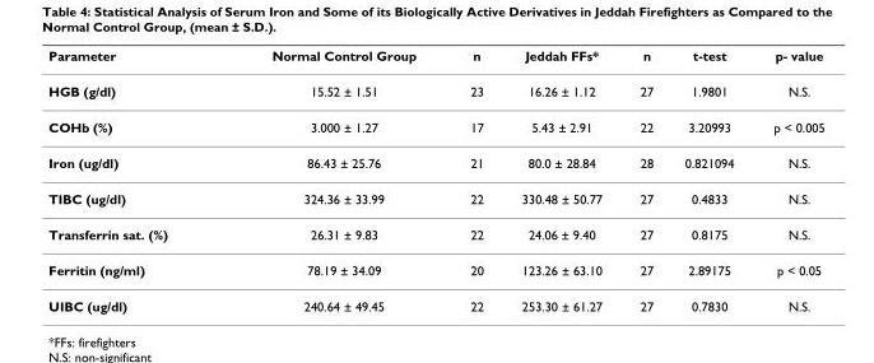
<table><thead><tr><td>Parameter</td><td>Normal Control Group</td><td>n</td><td>Jeddah FFs*</td><td>n</td><td>t-test</td><td>p- value</td></tr></thead><tbody><tr><td>HGB (g/dl)</td><td>15.52 ± 1.51</td><td>23</td><td>16.26 ± 1.12</td><td>27</td><td>1.9801</td><td>N.S.</td></tr><tr><td>COHb (%)</td><td>3.000 ± 1.27</td><td>17</td><td>5.43 ± 2.91</td><td>22</td><td>3.20993</td><td>p &lt; 0.005</td></tr><tr><td>Iron (ug/dl)</td><td>86.43 ± 25.76</td><td>21</td><td>80.0 ± 28.84</td><td>28</td><td>0.821094</td><td>N.S.</td></tr><tr><td>TIBC (ug/dl)</td><td>324.36 ± 33.99</td><td>22</td><td>330.48 ± 50.77</td><td>27</td><td>0.4833</td><td>N.S.</td></tr><tr><td>Transferrin sat. (%)</td><td>26.31 ± 9.83</td><td>22</td><td>24.06 ± 9.40</td><td>27</td><td>0.8175</td><td>N.S.</td></tr><tr><td>Ferritin (ng/ml)</td><td>78.19 ± 34.09</td><td>20</td><td>123.26 ± 63.10</td><td>27</td><td>2.89175</td><td>p &lt; 0.05</td></tr><tr><td>UIBC (ug/dl)</td><td>240.64 ± 49.45</td><td>22</td><td>253.30 ± 61.27</td><td>27</td><td>0.7830</td><td>N.S.</td></tr></tbody></table>